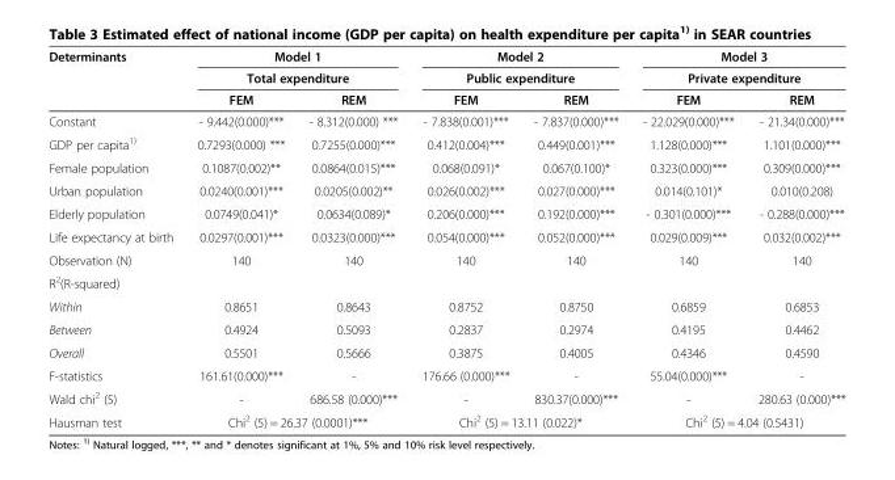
<table><thead><tr><td rowspan="3">Determinants</td><td rowspan="2" colspan="2">Model 1 Total expenditure</td><td rowspan="2" colspan="2">Model 2 Public expenditure</td><td rowspan="2" colspan="2">Model 3 Private expenditure</td></tr><tr></tr><tr><td>FEM</td><td>REM</td><td>FEM</td><td>REM</td><td>FEM</td><td>REM</td></tr></thead><tbody><tr><td>Constant</td><td>- 9.442(0.000)***</td><td>- 8.312(0.000) ***</td><td>- 7.838(0.001)***</td><td>- 7.837(0.000)***</td><td>- 22.029(0.000)***</td><td>- 21.34(0.000)***</td></tr><tr><td>GDP per capita<sup>1)</sup></td><td>0.7293(0.000) ***</td><td>0.7255(0.000)***</td><td>0.412(0.004)***</td><td>0.449(0.001)***</td><td>1.128(0.000)***</td><td>1.101(0.000)***</td></tr><tr><td>Female population</td><td>0.1087(0.002)**</td><td>0.0864(0.015)***</td><td>0.068(0.091)*</td><td>0.067(0.100)*</td><td>0.323(0.000)***</td><td>0.309(0.000)***</td></tr><tr><td>Urban population</td><td>0.0240(0.001)***</td><td>0.0205(0.002)**</td><td>0.026(0.002)***</td><td>0.027(0.000)***</td><td>0.014(0.101)*</td><td>0.010(0.208)</td></tr><tr><td>Elderly population</td><td>0.0749(0.041)*</td><td>0.0634(0.089)*</td><td>0.206(0.000)***</td><td>0.192(0.000)***</td><td>- 0.301(0.000)***</td><td>- 0.288(0.000)***</td></tr><tr><td>Life expectancy at birth</td><td>0.0297(0.001)***</td><td>0.0323(0.000)***</td><td>0.054(0.000)***</td><td>0.052(0.000)***</td><td>0.029(0.009)***</td><td>0.032(0.002)***</td></tr><tr><td>Observation (N)</td><td>140</td><td>140</td><td>140</td><td>140</td><td>140</td><td>140</td></tr><tr><td colspan="7">R<sup>2</sup>(R-squared)</td></tr><tr><td>Within</td><td>0.8651</td><td>0.8643</td><td>0.8752</td><td>0.8750</td><td>0.6859</td><td>0.6853</td></tr><tr><td>Between</td><td>0.4924</td><td>0.5093</td><td>0.2837</td><td>0.2974</td><td>0.4195</td><td>0.4462</td></tr><tr><td>Overall</td><td>0.5501</td><td>0.5666</td><td>0.3875</td><td>0.4005</td><td>0.4346</td><td>0.4590</td></tr><tr><td>F-statistics</td><td>161.61(0.000)***</td><td>-</td><td>176.66 (0.000)***</td><td>-</td><td>55.04(0.000)***</td><td>-</td></tr><tr><td>Wald chi<sup>2</sup> (5)</td><td>-</td><td>686.58 (0.000)***</td><td>-</td><td>830.37(0.000)***</td><td>-</td><td>280.63 (0.000)***</td></tr><tr><td>Hausman test</td><td colspan="2">Chi<sup>2</sup> (5) = 26.37 (0.0001)***</td><td colspan="2">Chi<sup>2</sup> (5) = 13.11 (0.022)*</td><td colspan="2">Chi<sup>2</sup> (5) = 4.04 (0.5431)</td></tr></tbody></table>